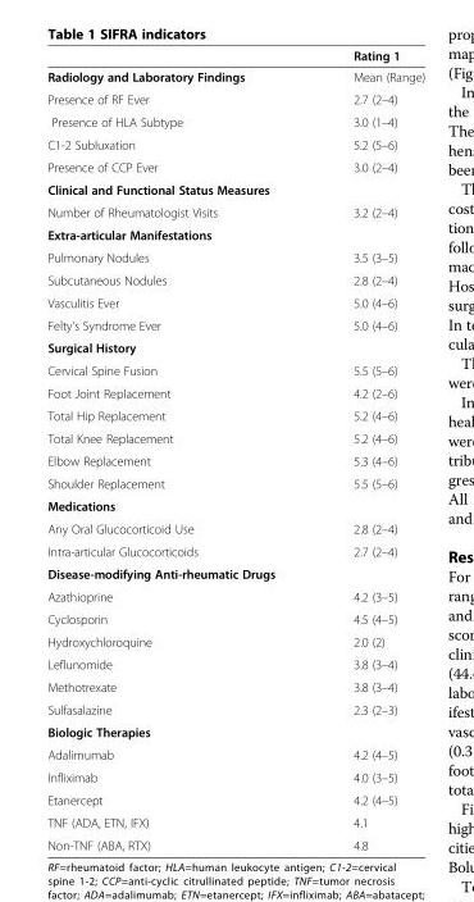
<table><thead><tr><td></td><td>Rating 1</td></tr></thead><tbody><tr><td>Radiology and Laboratory Findings</td><td>Mean (Range)</td></tr><tr><td>Presence of RF Ever</td><td>2.7 (2–4)</td></tr><tr><td>Presence of HLA Subtype</td><td>3.0 (1–4)</td></tr><tr><td>C1-2 Subluxation</td><td>5.2 (5–6)</td></tr><tr><td>Presence of CCP Ever</td><td>3.0 (2–4)</td></tr><tr><td colspan="2">Clinical and Functional Status Measures</td></tr><tr><td>Number of Rheumatologist Visits</td><td>3.2 (2–4)</td></tr><tr><td colspan="2">Extra-articular Manifestations</td></tr><tr><td>Pulmonary Nodules</td><td>3.5 (3–5)</td></tr><tr><td>Subcutaneous Nodules</td><td>2.8 (2–4)</td></tr><tr><td>Vasculitis Ever</td><td>5.0 (4–6)</td></tr><tr><td>Felty&#x27;s Syndrome Ever</td><td>5.0 (4–6)</td></tr><tr><td colspan="2">Surgical History</td></tr><tr><td>Cervical Spine Fusion</td><td>5.5 (5–6)</td></tr><tr><td>Foot Joint Replacement</td><td>4.2 (2–6)</td></tr><tr><td>Total Hip Replacement</td><td>5.2 (4–6)</td></tr><tr><td>Total Knee Replacement</td><td>5.2 (4–6)</td></tr><tr><td>Elbow Replacement</td><td>5.3 (4–6)</td></tr><tr><td>Shoulder Replacement</td><td>5.5 (5–6)</td></tr><tr><td colspan="2">Medications</td></tr><tr><td>Any Oral Glucocorticoid Use</td><td>2.8 (2–4)</td></tr><tr><td>Intra-articular Glucocorticoids</td><td>2.7 (2–4)</td></tr><tr><td colspan="2">Disease-modifying Anti-rheumatic Drugs</td></tr><tr><td>Azathioprine</td><td>4.2 (3–5)</td></tr><tr><td>Cyclosporin</td><td>4.5 (4–5)</td></tr><tr><td>Hydroxychloroquine</td><td>2.0 (2)</td></tr><tr><td>Leflunomide</td><td>3.8 (3–4)</td></tr><tr><td>Methotrexate</td><td>3.8 (3–4)</td></tr><tr><td>Sulfasalazine</td><td>2.3 (2–3)</td></tr><tr><td colspan="2">Biologic Therapies</td></tr><tr><td>Adalimumab</td><td>4.2 (4–5)</td></tr><tr><td>Infliximab</td><td>4.0 (3–5)</td></tr><tr><td>Etanercept</td><td>4.2 (4–5)</td></tr><tr><td>TNF (ADA, ETN, IFX)</td><td>4.1</td></tr><tr><td>Non-TNF (ABA, RTX)</td><td>4.8</td></tr></tbody></table>